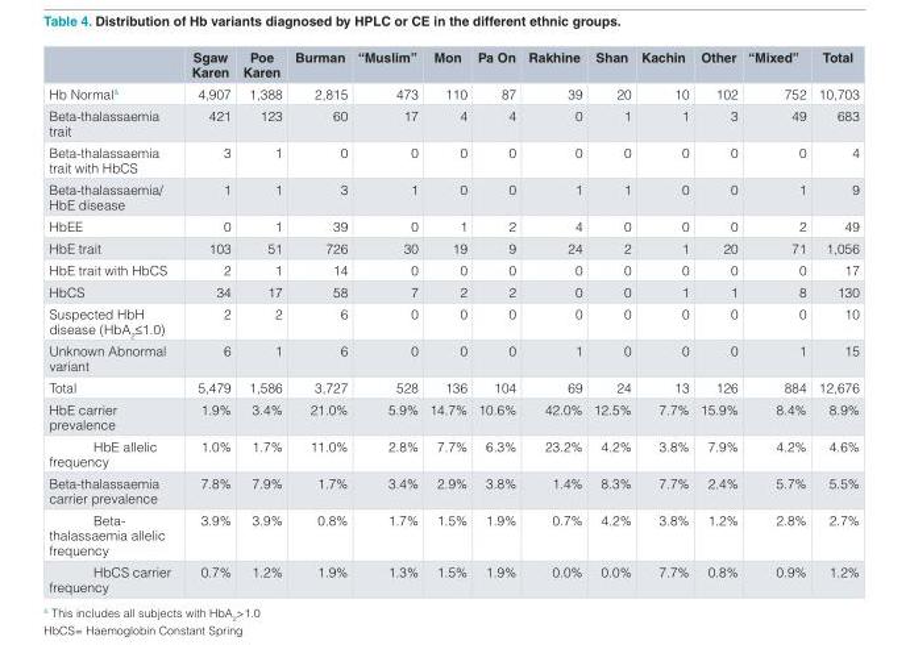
<table><thead><tr><td></td><td>Sgaw Karen</td><td>Poe Karen</td><td>Burman</td><td>“Muslim”</td><td>Mon</td><td>Pa On</td><td>Rakhine</td><td>Shan</td><td>Kachin</td><td>Other</td><td>“Mixed”</td><td>Total</td></tr></thead><tbody><tr><td>Hb Normal<sup>&amp;</sup></td><td>4,907</td><td>1,388</td><td>2,815</td><td>473</td><td>110</td><td>87</td><td>39</td><td>20</td><td>10</td><td>102</td><td>752</td><td>10,703</td></tr><tr><td>Beta-thalassaemia trait</td><td>421</td><td>123</td><td>60</td><td>17</td><td>4</td><td>4</td><td>0</td><td>1</td><td>1</td><td>3</td><td>49</td><td>683</td></tr><tr><td>Beta-thalassaemia trait with HbCS</td><td>3</td><td>1</td><td>0</td><td>0</td><td>0</td><td>0</td><td>0</td><td>0</td><td>0</td><td>0</td><td>0</td><td>4</td></tr><tr><td>Beta-thalassaemia/ HbE disease</td><td>1</td><td>1</td><td>3</td><td>1</td><td>0</td><td>0</td><td>1</td><td>1</td><td>0</td><td>0</td><td>1</td><td>9</td></tr><tr><td>HbEE</td><td>0</td><td>1</td><td>39</td><td>0</td><td>1</td><td>2</td><td>4</td><td>0</td><td>0</td><td>0</td><td>2</td><td>49</td></tr><tr><td>HbE trait</td><td>103</td><td>51</td><td>726</td><td>30</td><td>19</td><td>9</td><td>24</td><td>2</td><td>1</td><td>20</td><td>71</td><td>1,056</td></tr><tr><td>HbE trait with HbCS</td><td>2</td><td>1</td><td>14</td><td>0</td><td>0</td><td>0</td><td>0</td><td>0</td><td>0</td><td>0</td><td>0</td><td>17</td></tr><tr><td>HbCS</td><td>34</td><td>17</td><td>58</td><td>7</td><td>2</td><td>2</td><td>0</td><td>0</td><td>1</td><td>1</td><td>8</td><td>130</td></tr><tr><td>Suspected HbH disease (HbA<sub>2</sub>≤1.0)</td><td>2</td><td>2</td><td>6</td><td>0</td><td>0</td><td>0</td><td>0</td><td>0</td><td>0</td><td>0</td><td>0</td><td>10</td></tr><tr><td>Unknown Abnormal variant</td><td>6</td><td>1</td><td>6</td><td>0</td><td>0</td><td>0</td><td>1</td><td>0</td><td>0</td><td>0</td><td>1</td><td>15</td></tr><tr><td>Total</td><td>5,479</td><td>1,586</td><td>3,727</td><td>528</td><td>136</td><td>104</td><td>69</td><td>24</td><td>13</td><td>126</td><td>884</td><td>12,676</td></tr><tr><td>HbE carrier prevalence</td><td>1.9%</td><td>3.4%</td><td>21.0%</td><td>5.9%</td><td>14.7%</td><td>10.6%</td><td>42.0%</td><td>12.5%</td><td>7.7%</td><td>15.9%</td><td>8.4%</td><td>8.9%</td></tr><tr><td>HbE allelic frequency</td><td>1.0%</td><td>1.7%</td><td>11.0%</td><td>2.8%</td><td>7.7%</td><td>6.3%</td><td>23.2%</td><td>4.2%</td><td>3.8%</td><td>7.9%</td><td>4.2%</td><td>4.6%</td></tr><tr><td>Beta-thalassaemia carrier prevalence</td><td>7.8%</td><td>7.9%</td><td>1.7%</td><td>3.4%</td><td>2.9%</td><td>3.8%</td><td>1.4%</td><td>8.3%</td><td>7.7%</td><td>2.4%</td><td>5.7%</td><td>5.5%</td></tr><tr><td>Beta- thalassaemia allelic frequency</td><td>3.9%</td><td>3.9%</td><td>0.8%</td><td>1.7%</td><td>1.5%</td><td>1.9%</td><td>0.7%</td><td>4.2%</td><td>3.8%</td><td>1.2%</td><td>2.8%</td><td>2.7%</td></tr><tr><td>HbCS carrier frequency</td><td>0.7%</td><td>1.2%</td><td>1.9%</td><td>1.3%</td><td>1.5%</td><td>1.9%</td><td>0.0%</td><td>0.0%</td><td>7.7%</td><td>0.8%</td><td>0.9%</td><td>1.2%</td></tr></tbody></table>